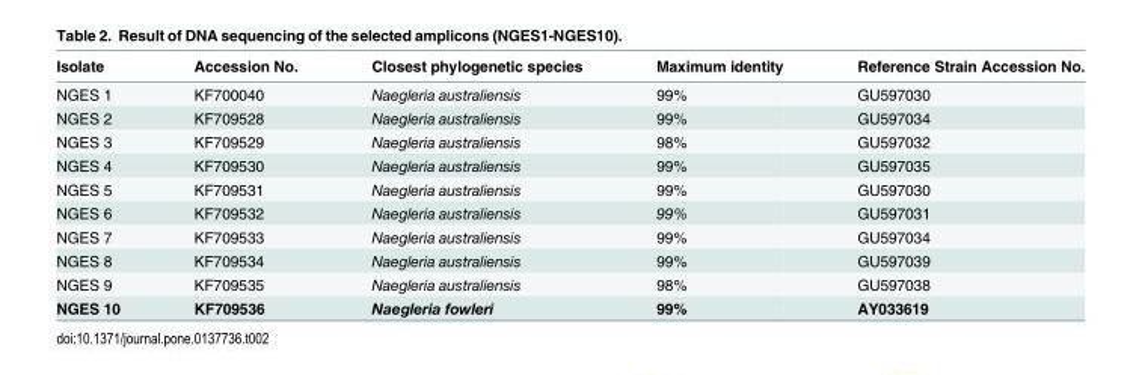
<table><thead><tr><td>Isolate</td><td>Accession No.</td><td>Closest phylogenetic species</td><td>Maximum identity</td><td>Reference Strain Accession No.</td></tr></thead><tbody><tr><td>NGES 1</td><td>KF700040</td><td>Naegleria australiensis</td><td>99%</td><td>GU597030</td></tr><tr><td>NGES 2</td><td>KF709528</td><td>Naegleria australiensis</td><td>99%</td><td>GU597034</td></tr><tr><td>NGES 3</td><td>KF709529</td><td>Naegleria australiensis</td><td>98%</td><td>GU597032</td></tr><tr><td>NGES 4</td><td>KF709530</td><td>Naegleria australiensis</td><td>99%</td><td>GU597035</td></tr><tr><td>NGES 5</td><td>KF709531</td><td>Naegleria australiensis</td><td>99%</td><td>GU597030</td></tr><tr><td>NGES 6</td><td>KF709532</td><td>Naegleria australiensis</td><td>99%</td><td>GU597031</td></tr><tr><td>NGES 7</td><td>KF709533</td><td>Naegleria australiensis</td><td>99%</td><td>GU597034</td></tr><tr><td>NGES 8</td><td>KF709534</td><td>Naegleria australiensis</td><td>99%</td><td>GU597039</td></tr><tr><td>NGES 9</td><td>KF709535</td><td>Naegleria australiensis</td><td>98%</td><td>GU597038</td></tr><tr><td>NGES 10</td><td>KF709536</td><td>Naegleria fowleri</td><td>99%</td><td>AY033619</td></tr></tbody></table>